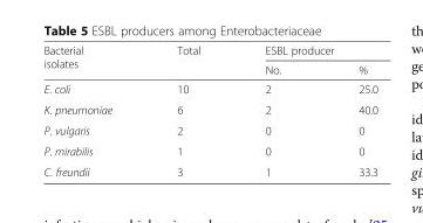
<table><thead><tr><td rowspan="2">Bacterial isolates</td><td rowspan="2">Total</td><td colspan="2">ESBL producer</td></tr><tr><td>No.</td><td>%</td></tr></thead><tbody><tr><td>E. coli</td><td>10</td><td>2</td><td>25.0</td></tr><tr><td>K. pneumoniae</td><td>6</td><td>2</td><td>40.0</td></tr><tr><td>P. vulgaris</td><td>2</td><td>0</td><td>0</td></tr><tr><td>P. mirabilis</td><td>1</td><td>0</td><td>0</td></tr><tr><td>C. freundii</td><td>3</td><td>1</td><td>33.3</td></tr></tbody></table>